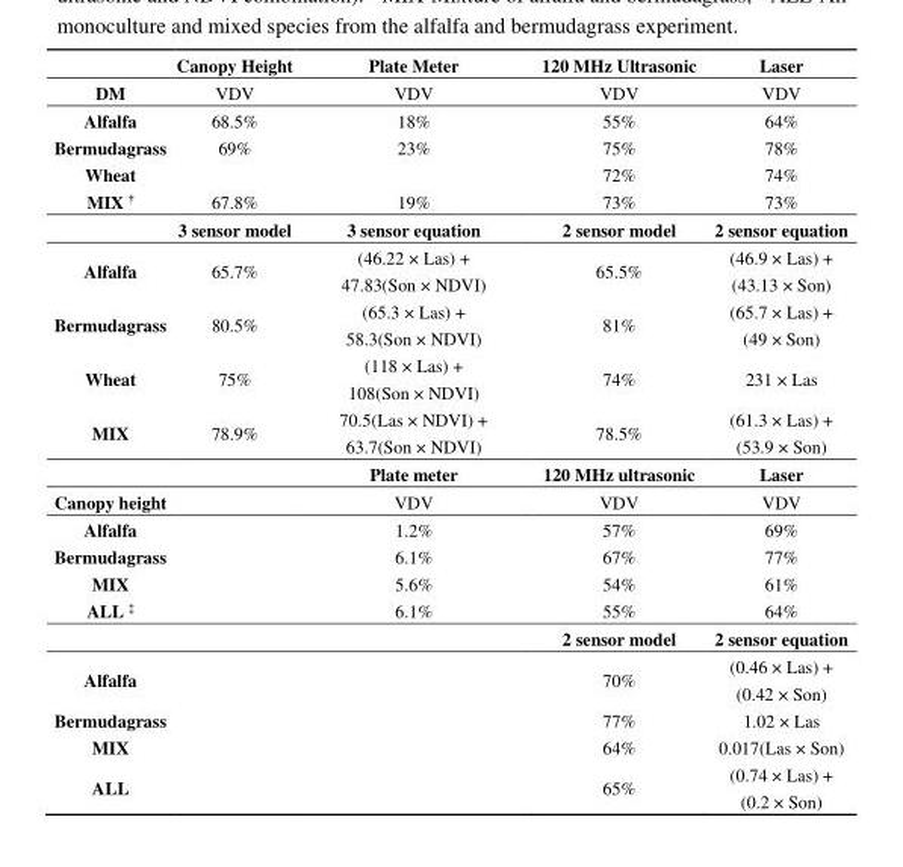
<table><thead><tr><td rowspan="2">DM</td><td rowspan="2">Canopy Height VDV</td><td rowspan="2">Plate Meter VDV</td><td rowspan="2">120 MHz Ultrasonic VDV</td><td rowspan="2">Laser VDV</td></tr><tr></tr></thead><tbody><tr><td>Alfalfa</td><td>68.5%</td><td>18%</td><td>55%</td><td>64%</td></tr><tr><td>Bermudagrass</td><td>69%</td><td>23%</td><td>75%</td><td>78%</td></tr><tr><td>Wheat</td><td></td><td></td><td>72%</td><td>74%</td></tr><tr><td rowspan="2">MIX <sup>†</sup></td><td>67.8%</td><td>19%</td><td>73%</td><td>73%</td></tr><tr><td>3 sensor model</td><td>3 sensor equation</td><td>2 sensor model</td><td>2 sensor equation</td></tr><tr><td>Alfalfa</td><td>65.7%</td><td>(46.22 × Las) + 47.83(Son × NDVI)</td><td>65.5%</td><td>(46.9 × Las) + (43.13 × Son)</td></tr><tr><td>Bermudagrass</td><td>80.5%</td><td>(65.3 × Las) + 58.3(Son × NDVI)</td><td>81%</td><td>(65.7 × Las) + (49 × Son)</td></tr><tr><td>Wheat</td><td>75%</td><td>(118 × Las) + 108(Son × NDVI)</td><td>74%</td><td>231 × Las</td></tr><tr><td rowspan="2">MIX</td><td>78.9%</td><td>70.5(Las × NDVI) + 63.7(Son × NDVI)</td><td>78.5%</td><td>(61.3 × Las) + (53.9 × Son)</td></tr><tr><td></td><td>Plate meter</td><td>120 MHz ultrasonic</td><td>Laser</td></tr><tr><td>Canopy height</td><td></td><td>VDV</td><td>VDV</td><td>VDV</td></tr><tr><td>Alfalfa</td><td></td><td>1.2%</td><td>57%</td><td>69%</td></tr><tr><td>Bermudagrass</td><td></td><td>6.1%</td><td>67%</td><td>77%</td></tr><tr><td>MIX</td><td></td><td>5.6%</td><td>54%</td><td>61%</td></tr><tr><td rowspan="2">ALL <sup>‡</sup></td><td></td><td>6.1%</td><td>55%</td><td>64%</td></tr><tr><td></td><td></td><td>2 sensor model</td><td>2 sensor equation</td></tr><tr><td>Alfalfa</td><td></td><td></td><td>70%</td><td>(0.46 × Las) + (0.42 × Son)</td></tr><tr><td>Bermudagrass</td><td></td><td></td><td>77%</td><td>1.02 × Las</td></tr><tr><td>MIX</td><td></td><td></td><td>64%</td><td>0.017(Las × Son)</td></tr><tr><td>ALL</td><td></td><td></td><td>65%</td><td>(0.74 × Las) + (0.2 × Son)</td></tr></tbody></table>